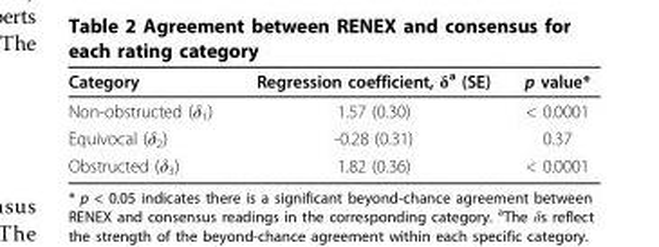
<table><thead><tr><td>Category</td><td>Regression coefficient, δ<sup>a</sup> (SE)</td><td>p value*</td></tr></thead><tbody><tr><td>Non-obstructed (δ<sub>1</sub>)</td><td>1.57 (0.30)</td><td>&lt; 0.0001</td></tr><tr><td>Equivocal (δ<sub>2</sub>)</td><td>-0.28 (0.31)</td><td>0.37</td></tr><tr><td>Obstructed (δ<sub>3</sub>)</td><td>1.82 (0.36)</td><td>&lt; 0.0001</td></tr></tbody></table>